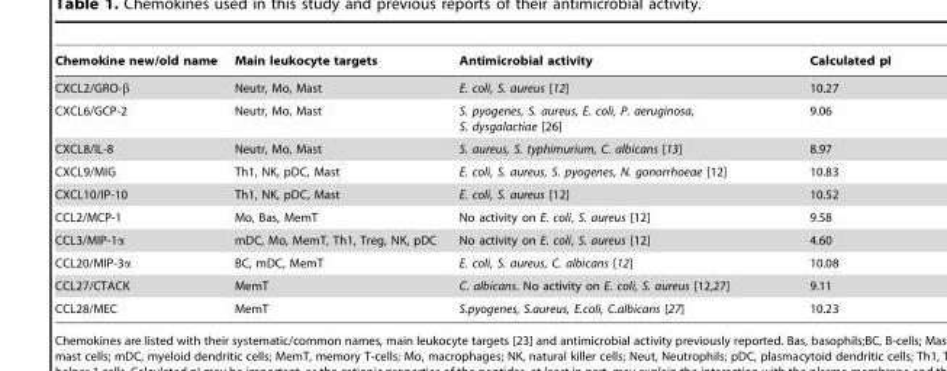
<table><thead><tr><td>Chemokine new/old name</td><td>Main leukocyte targets</td><td>Antimicrobial activity</td><td>Calculated pI</td></tr></thead><tbody><tr><td>CXCL2/GRO-β</td><td>Neutr, Mo, Mast</td><td>E. coli, S. aureus [12]</td><td>10.27</td></tr><tr><td>CXCL6/GCP-2</td><td>Neutr, Mo, Mast</td><td>S. pyogenes, S. aureus, E. coli, P. aeruginosa, S. dysgalactiae [26]</td><td>9.06</td></tr><tr><td>CXCL8/IL-8</td><td>Neutr, Mo, Mast</td><td>S. aureus, S. typhimurium, C. albicans [13]</td><td>8.97</td></tr><tr><td>CXCL9/MIG</td><td>Th1, NK, pDC, Mast</td><td>E. coli, S. aureus, S. pyogenes, N. gonorrhoeae [12]</td><td>10.83</td></tr><tr><td>CXCL10/IP-10</td><td>Th1, NK, pDC, Mast</td><td>E. coli, S. aureus [12]</td><td>10.52</td></tr><tr><td>CCL2/MCP-1</td><td>Mo, Bas, MemT</td><td>No activity on E. coli, S. aureus [12]</td><td>9.58</td></tr><tr><td>CCL3/MIP-1α</td><td>mDC, Mo, MemT, Th1, Treg, NK, pDC</td><td>No activity on E. coli, S. aureus [12]</td><td>4.60</td></tr><tr><td>CCL20/MIP-3α</td><td>BC, mDC, MemT</td><td>E. coli, S. aureus, C. albicans [12]</td><td>10.08</td></tr><tr><td>CCL27/CTACK</td><td>MemT</td><td>C. albicans. No activity on E. coli, S. aureus [12,27]</td><td>9.11</td></tr><tr><td>CCL28/MEC</td><td>MemT</td><td>S.pyogenes, S.aureus, E.coli, C.albicans [27]</td><td>10.23</td></tr></tbody></table>